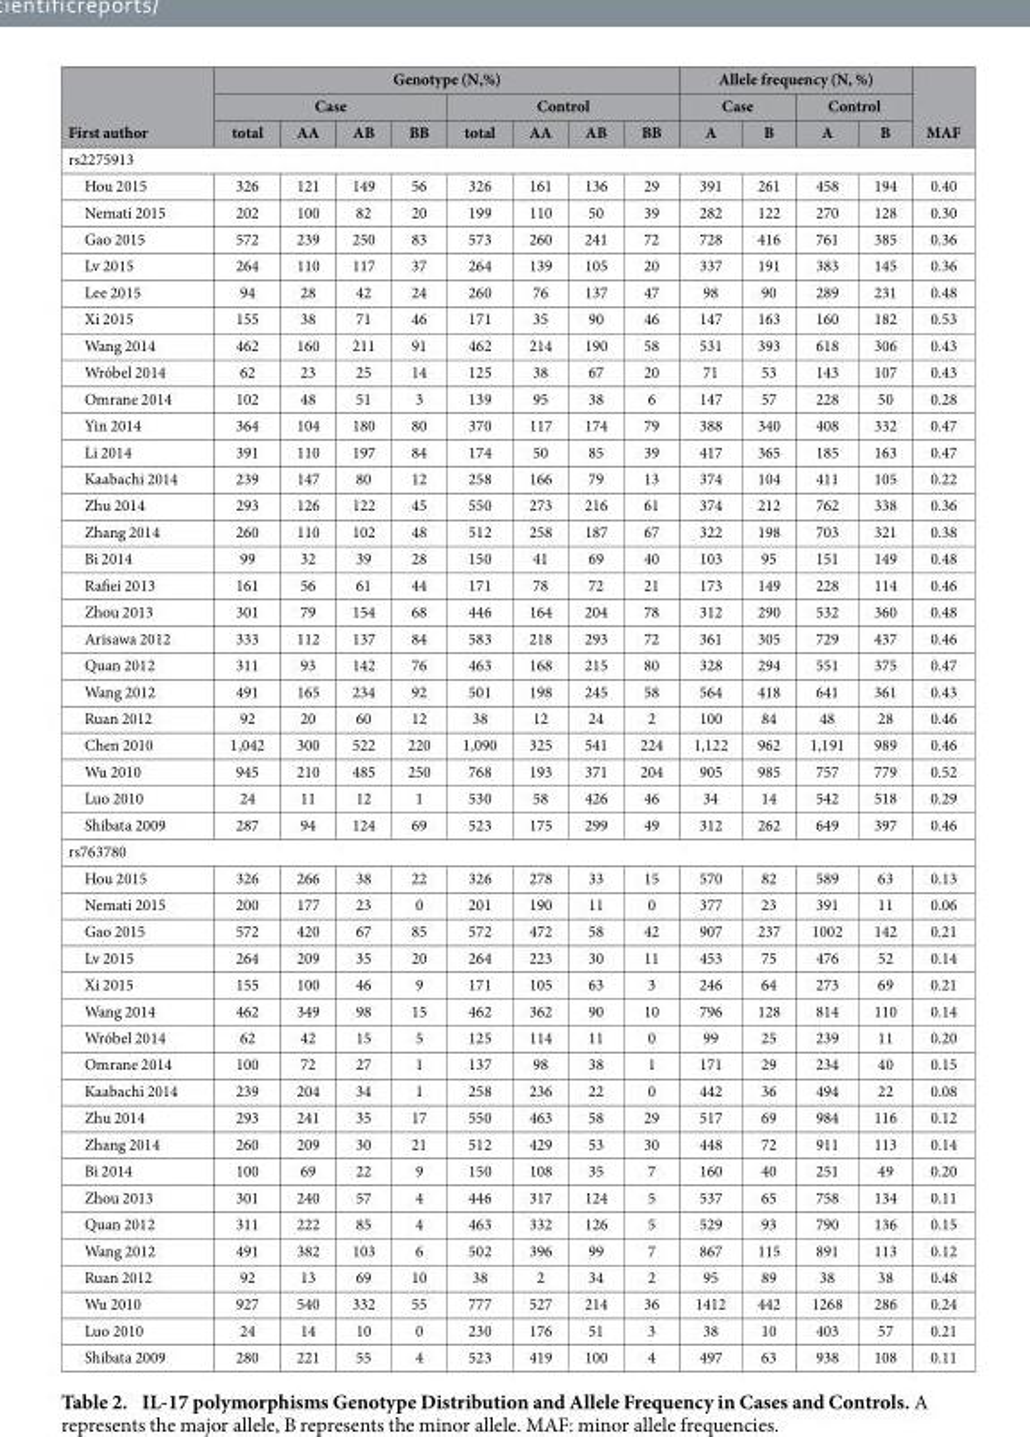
<table><thead><tr><td rowspan="3">First author</td><td colspan="8">Genotype (N,%)</td><td colspan="4">Allele frequency (N, %)</td><td rowspan="3">MAF</td></tr><tr><td colspan="4">Case</td><td colspan="4">Control</td><td colspan="2">Case</td><td colspan="2">Control</td></tr><tr><td>total</td><td>AA</td><td>AB</td><td>BB</td><td>total</td><td>AA</td><td>AB</td><td>BB</td><td>A</td><td>B</td><td>A</td><td>B</td></tr></thead><tbody><tr><td colspan="14">rs2275913</td></tr><tr><td>Hou 2015</td><td>326</td><td>121</td><td>149</td><td>56</td><td>326</td><td>161</td><td>136</td><td>29</td><td>391</td><td>261</td><td>458</td><td>194</td><td>0.40</td></tr><tr><td>Nemati 2015</td><td>202</td><td>100</td><td>82</td><td>20</td><td>199</td><td>110</td><td>50</td><td>39</td><td>282</td><td>122</td><td>270</td><td>128</td><td>0.30</td></tr><tr><td>Gao 2015</td><td>572</td><td>239</td><td>250</td><td>83</td><td>573</td><td>260</td><td>241</td><td>72</td><td>728</td><td>416</td><td>761</td><td>385</td><td>0.36</td></tr><tr><td>Lv 2015</td><td>264</td><td>110</td><td>117</td><td>37</td><td>264</td><td>139</td><td>105</td><td>20</td><td>337</td><td>191</td><td>383</td><td>145</td><td>0.36</td></tr><tr><td>Lee 2015</td><td>94</td><td>28</td><td>42</td><td>24</td><td>260</td><td>76</td><td>137</td><td>47</td><td>98</td><td>90</td><td>289</td><td>231</td><td>0.48</td></tr><tr><td>Xi 2015</td><td>155</td><td>38</td><td>71</td><td>46</td><td>171</td><td>35</td><td>90</td><td>46</td><td>147</td><td>163</td><td>160</td><td>182</td><td>0.53</td></tr><tr><td>Wang 2014</td><td>462</td><td>160</td><td>211</td><td>91</td><td>462</td><td>214</td><td>190</td><td>58</td><td>531</td><td>393</td><td>618</td><td>306</td><td>0.43</td></tr><tr><td>Wróbel 2014</td><td>62</td><td>23</td><td>25</td><td>14</td><td>125</td><td>38</td><td>67</td><td>20</td><td>71</td><td>53</td><td>143</td><td>107</td><td>0.43</td></tr><tr><td>Omrane 2014</td><td>102</td><td>48</td><td>51</td><td>3</td><td>139</td><td>95</td><td>38</td><td>6</td><td>147</td><td>57</td><td>228</td><td>50</td><td>0.28</td></tr><tr><td>Yin 2014</td><td>364</td><td>104</td><td>180</td><td>80</td><td>370</td><td>117</td><td>174</td><td>79</td><td>388</td><td>340</td><td>408</td><td>332</td><td>0.47</td></tr><tr><td>Li 2014</td><td>391</td><td>110</td><td>197</td><td>84</td><td>174</td><td>50</td><td>85</td><td>39</td><td>417</td><td>365</td><td>185</td><td>163</td><td>0.47</td></tr><tr><td>Kaabachi 2014</td><td>239</td><td>147</td><td>80</td><td>12</td><td>258</td><td>166</td><td>79</td><td>13</td><td>374</td><td>104</td><td>411</td><td>105</td><td>0.22</td></tr><tr><td>Zhu 2014</td><td>293</td><td>126</td><td>122</td><td>45</td><td>550</td><td>273</td><td>216</td><td>61</td><td>374</td><td>212</td><td>762</td><td>338</td><td>0.36</td></tr><tr><td>Zhang 2014</td><td>260</td><td>110</td><td>102</td><td>48</td><td>512</td><td>258</td><td>187</td><td>67</td><td>322</td><td>198</td><td>703</td><td>321</td><td>0.38</td></tr><tr><td>Bi 2014</td><td>99</td><td>32</td><td>39</td><td>28</td><td>150</td><td>41</td><td>69</td><td>40</td><td>103</td><td>95</td><td>151</td><td>149</td><td>0.48</td></tr><tr><td>Rafiei 2013</td><td>161</td><td>56</td><td>61</td><td>44</td><td>171</td><td>78</td><td>72</td><td>21</td><td>173</td><td>149</td><td>228</td><td>114</td><td>0.46</td></tr><tr><td>Zhou 2013</td><td>301</td><td>79</td><td>154</td><td>68</td><td>446</td><td>164</td><td>204</td><td>78</td><td>312</td><td>290</td><td>532</td><td>360</td><td>0.48</td></tr><tr><td>Arisawa 2012</td><td>333</td><td>112</td><td>137</td><td>84</td><td>583</td><td>218</td><td>293</td><td>72</td><td>361</td><td>305</td><td>729</td><td>437</td><td>0.46</td></tr><tr><td>Quan 2012</td><td>311</td><td>93</td><td>142</td><td>76</td><td>463</td><td>168</td><td>215</td><td>80</td><td>328</td><td>294</td><td>551</td><td>375</td><td>0.47</td></tr><tr><td>Wang 2012</td><td>491</td><td>165</td><td>234</td><td>92</td><td>501</td><td>198</td><td>245</td><td>58</td><td>564</td><td>418</td><td>641</td><td>361</td><td>0.43</td></tr><tr><td>Ruan 2012</td><td>92</td><td>20</td><td>60</td><td>12</td><td>38</td><td>12</td><td>24</td><td>2</td><td>100</td><td>84</td><td>48</td><td>28</td><td>0.46</td></tr><tr><td>Chen 2010</td><td>1,042</td><td>300</td><td>522</td><td>220</td><td>1,090</td><td>325</td><td>541</td><td>224</td><td>1,122</td><td>962</td><td>1,191</td><td>989</td><td>0.46</td></tr><tr><td>Wu 2010</td><td>945</td><td>210</td><td>485</td><td>250</td><td>768</td><td>193</td><td>371</td><td>204</td><td>905</td><td>985</td><td>757</td><td>779</td><td>0.52</td></tr><tr><td>Luo 2010</td><td>24</td><td>11</td><td>12</td><td>1</td><td>530</td><td>58</td><td>426</td><td>46</td><td>34</td><td>14</td><td>542</td><td>518</td><td>0.29</td></tr><tr><td>Shibata 2009</td><td>287</td><td>94</td><td>124</td><td>69</td><td>523</td><td>175</td><td>299</td><td>49</td><td>312</td><td>262</td><td>649</td><td>397</td><td>0.46</td></tr><tr><td colspan="14">rs763780</td></tr><tr><td>Hou 2015</td><td>326</td><td>266</td><td>38</td><td>22</td><td>326</td><td>278</td><td>33</td><td>15</td><td>570</td><td>82</td><td>589</td><td>63</td><td>0.13</td></tr><tr><td>Nemati 2015</td><td>200</td><td>177</td><td>23</td><td>0</td><td>201</td><td>190</td><td>11</td><td>0</td><td>377</td><td>23</td><td>391</td><td>11</td><td>0.06</td></tr><tr><td>Gao 2015</td><td>572</td><td>420</td><td>67</td><td>85</td><td>572</td><td>472</td><td>58</td><td>42</td><td>907</td><td>237</td><td>1002</td><td>142</td><td>0.21</td></tr><tr><td>Lv 2015</td><td>264</td><td>209</td><td>35</td><td>20</td><td>264</td><td>223</td><td>30</td><td>11</td><td>453</td><td>75</td><td>476</td><td>52</td><td>0.14</td></tr><tr><td>Xi 2015</td><td>155</td><td>100</td><td>46</td><td>9</td><td>171</td><td>105</td><td>63</td><td>3</td><td>246</td><td>64</td><td>273</td><td>69</td><td>0.21</td></tr><tr><td>Wang 2014</td><td>462</td><td>349</td><td>98</td><td>15</td><td>462</td><td>362</td><td>90</td><td>10</td><td>796</td><td>128</td><td>814</td><td>110</td><td>0.14</td></tr><tr><td>Wróbel 2014</td><td>62</td><td>42</td><td>15</td><td>5</td><td>125</td><td>114</td><td>11</td><td>0</td><td>99</td><td>25</td><td>239</td><td>11</td><td>0.20</td></tr><tr><td>Omrane 2014</td><td>100</td><td>72</td><td>27</td><td>1</td><td>137</td><td>98</td><td>38</td><td>1</td><td>171</td><td>29</td><td>234</td><td>40</td><td>0.15</td></tr><tr><td>Kaabachi 2014</td><td>239</td><td>204</td><td>34</td><td>1</td><td>258</td><td>236</td><td>22</td><td>0</td><td>442</td><td>36</td><td>494</td><td>22</td><td>0.08</td></tr><tr><td>Zhu 2014</td><td>293</td><td>241</td><td>35</td><td>17</td><td>550</td><td>463</td><td>58</td><td>29</td><td>517</td><td>69</td><td>984</td><td>116</td><td>0.12</td></tr><tr><td>Zhang 2014</td><td>260</td><td>209</td><td>30</td><td>21</td><td>512</td><td>429</td><td>53</td><td>30</td><td>448</td><td>72</td><td>911</td><td>113</td><td>0.14</td></tr><tr><td>Bi 2014</td><td>100</td><td>69</td><td>22</td><td>9</td><td>150</td><td>108</td><td>35</td><td>7</td><td>160</td><td>40</td><td>251</td><td>49</td><td>0.20</td></tr><tr><td>Zhou 2013</td><td>301</td><td>240</td><td>57</td><td>4</td><td>446</td><td>317</td><td>124</td><td>5</td><td>537</td><td>65</td><td>758</td><td>134</td><td>0.11</td></tr><tr><td>Quan 2012</td><td>311</td><td>222</td><td>85</td><td>4</td><td>463</td><td>332</td><td>126</td><td>5</td><td>529</td><td>93</td><td>790</td><td>136</td><td>0.15</td></tr><tr><td>Wang 2012</td><td>491</td><td>382</td><td>103</td><td>6</td><td>502</td><td>396</td><td>99</td><td>7</td><td>867</td><td>115</td><td>891</td><td>113</td><td>0.12</td></tr><tr><td>Ruan 2012</td><td>92</td><td>13</td><td>69</td><td>10</td><td>38</td><td>2</td><td>34</td><td>2</td><td>95</td><td>89</td><td>38</td><td>38</td><td>0.48</td></tr><tr><td>Wu 2010</td><td>927</td><td>540</td><td>332</td><td>55</td><td>777</td><td>527</td><td>214</td><td>36</td><td>1412</td><td>442</td><td>1268</td><td>286</td><td>0.24</td></tr><tr><td>Luo 2010</td><td>24</td><td>14</td><td>10</td><td>0</td><td>230</td><td>176</td><td>51</td><td>3</td><td>38</td><td>10</td><td>403</td><td>57</td><td>0.21</td></tr><tr><td>Shibata 2009</td><td>280</td><td>221</td><td>55</td><td>4</td><td>523</td><td>419</td><td>100</td><td>4</td><td>497</td><td>63</td><td>938</td><td>108</td><td>0.11</td></tr></tbody></table>